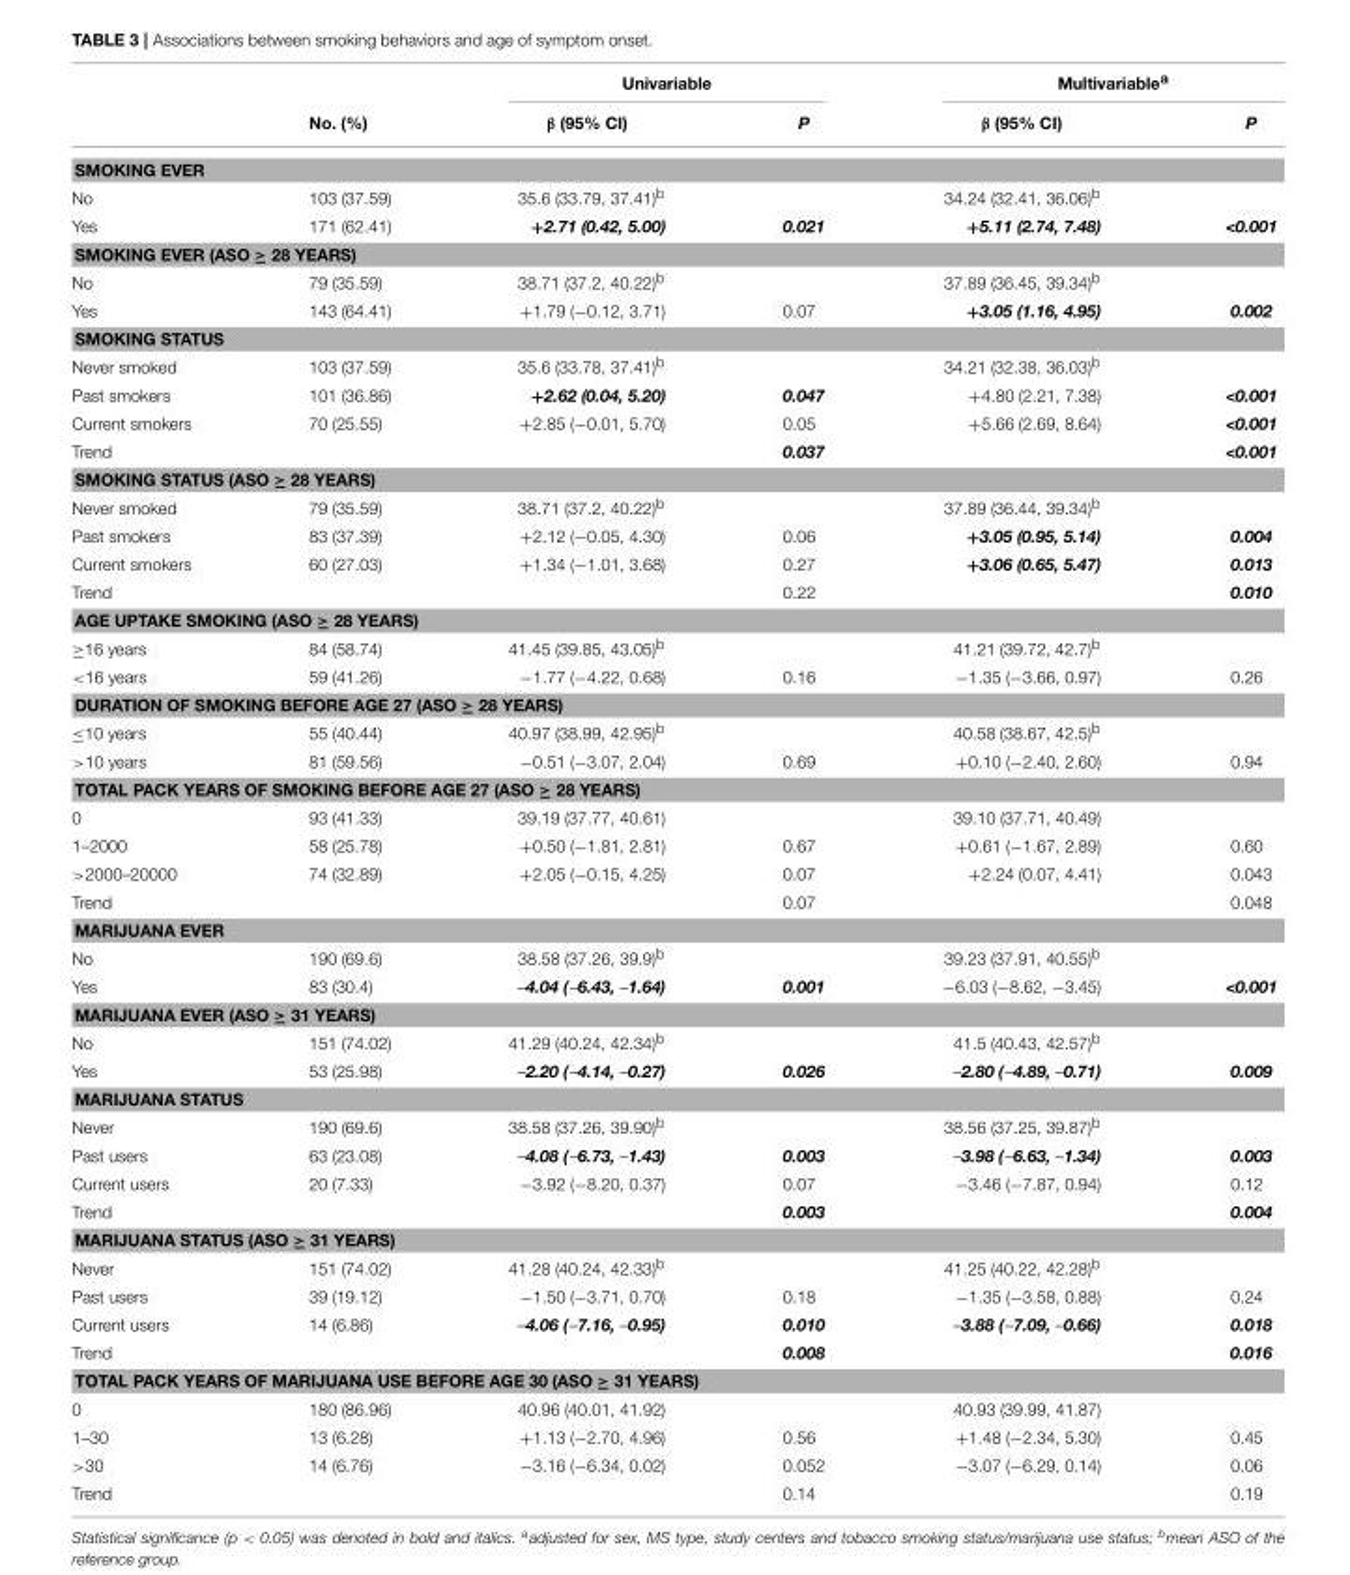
<table><thead><tr><td rowspan="2"></td><td rowspan="2">No. (%)</td><td colspan="2">Univariable</td><td colspan="2">Multivariable<sup>a</sup></td></tr><tr><td>β (95% CI)</td><td>P</td><td>β (95% CI)</td><td>P</td></tr></thead><tbody><tr><td colspan="6">SMOKING EVER</td></tr><tr><td>No</td><td>103 (37.59)</td><td>35.6 (33.79, 37.41)<sup>b</sup></td><td></td><td>34.24 (32.41, 36.06)<sup>b</sup></td><td></td></tr><tr><td>Yes</td><td>171 (62.41)</td><td>+2.71 (0.42, 5.00)</td><td>0.021</td><td>+5.11 (2.74, 7.48)</td><td>&lt;0.001</td></tr><tr><td colspan="6">SMOKING EVER (ASO ≥ 28 YEARS)</td></tr><tr><td>No</td><td>79 (35.59)</td><td>38.71 (37.2, 40.22)<sup>b</sup></td><td></td><td>37.89 (36.45, 39.34)<sup>b</sup></td><td></td></tr><tr><td>Yes</td><td>143 (64.41)</td><td>+1.79 (−0.12, 3.71)</td><td>0.07</td><td>+3.05 (1.16, 4.95)</td><td>0.002</td></tr><tr><td colspan="6">SMOKING STATUS</td></tr><tr><td>Never smoked</td><td>103 (37.59)</td><td>35.6 (33.78, 37.41)<sup>b</sup></td><td></td><td>34.21 (32.38, 36.03)<sup>b</sup></td><td></td></tr><tr><td>Past smokers</td><td>101 (36.86)</td><td>+2.62 (0.04, 5.20)</td><td>0.047</td><td>+4.80 (2.21, 7.38)</td><td>&lt;0.001</td></tr><tr><td>Current smokers</td><td>70 (25.55)</td><td>+2.85 (−0.01, 5.70)</td><td>0.05</td><td>+5.66 (2.69, 8.64)</td><td>&lt;0.001</td></tr><tr><td>Trend</td><td></td><td></td><td>0.037</td><td></td><td>&lt;0.001</td></tr><tr><td colspan="6">SMOKING STATUS (ASO ≥ 28 YEARS)</td></tr><tr><td>Never smoked</td><td>79 (35.59)</td><td>38.71 (37.2, 40.22)<sup>b</sup></td><td></td><td>37.89 (36.44, 39.34)<sup>b</sup></td><td></td></tr><tr><td>Past smokers</td><td>83 (37.39)</td><td>+2.12 (−0.05, 4.30)</td><td>0.06</td><td>+3.05 (0.95, 5.14)</td><td>0.004</td></tr><tr><td>Current smokers</td><td>60 (27.03)</td><td>+1.34 (−1.01, 3.68)</td><td>0.27</td><td>+3.06 (0.65, 5.47)</td><td>0.013</td></tr><tr><td>Trend</td><td></td><td></td><td>0.22</td><td></td><td>0.010</td></tr><tr><td colspan="6">AGE UPTAKE SMOKING (ASO ≥ 28 YEARS)</td></tr><tr><td>≥16 years</td><td>84 (58.74)</td><td>41.45 (39.85, 43.05)<sup>b</sup></td><td></td><td>41.21 (39.72, 42.7)<sup>b</sup></td><td></td></tr><tr><td>&lt;16 years</td><td>59 (41.26)</td><td>−1.77 (−4.22, 0.68)</td><td>0.16</td><td>−1.35 (−3.66, 0.97)</td><td>0.26</td></tr><tr><td colspan="6">DURATION OF SMOKING BEFORE AGE 27 (ASO ≥ 28 YEARS)</td></tr><tr><td>≤10 years</td><td>55 (40.44)</td><td>40.97 (38.99, 42.95)<sup>b</sup></td><td></td><td>40.58 (38.67, 42.5)<sup>b</sup></td><td></td></tr><tr><td>&gt;10 years</td><td>81 (59.56)</td><td>−0.51 (−3.07, 2.04)</td><td>0.69</td><td>+0.10 (−2.40, 2.60)</td><td>0.94</td></tr><tr><td colspan="6">TOTAL PACK YEARS OF SMOKING BEFORE AGE 27 (ASO ≥ 28 YEARS)</td></tr><tr><td>0</td><td>93 (41.33)</td><td>39.19 (37.77, 40.61)</td><td></td><td>39.10 (37.71, 40.49)</td><td></td></tr><tr><td>1–2000</td><td>58 (25.78)</td><td>+0.50 (−1.81, 2.81)</td><td>0.67</td><td>+0.61 (−1.67, 2.89)</td><td>0.60</td></tr><tr><td>&gt;2000–20000</td><td>74 (32.89)</td><td>+2.05 (−0.15, 4.25)</td><td>0.07</td><td>+2.24 (0.07, 4.41)</td><td>0.043</td></tr><tr><td>Trend</td><td></td><td></td><td>0.07</td><td></td><td>0.048</td></tr><tr><td colspan="6">MARIJUANA EVER</td></tr><tr><td>No</td><td>190 (69.6)</td><td>38.58 (37.26, 39.9)<sup>b</sup></td><td></td><td>39.23 (37.91, 40.55)<sup>b</sup></td><td></td></tr><tr><td>Yes</td><td>83 (30.4)</td><td>–4.04 (–6.43, –1.64)</td><td>0.001</td><td>−6.03 (−8.62, −3.45)</td><td>&lt;0.001</td></tr><tr><td colspan="6">MARIJUANA EVER (ASO ≥ 31 YEARS)</td></tr><tr><td>No</td><td>151 (74.02)</td><td>41.29 (40.24, 42.34)<sup>b</sup></td><td></td><td>41.5 (40.43, 42.57)<sup>b</sup></td><td></td></tr><tr><td>Yes</td><td>53 (25.98)</td><td>–2.20 (–4.14, –0.27)</td><td>0.026</td><td>–2.80 (–4.89, –0.71)</td><td>0.009</td></tr><tr><td colspan="6">MARIJUANA STATUS</td></tr><tr><td>Never</td><td>190 (69.6)</td><td>38.58 (37.26, 39.90)<sup>b</sup></td><td></td><td>38.56 (37.25, 39.87)<sup>b</sup></td><td></td></tr><tr><td>Past users</td><td>63 (23.08)</td><td>–4.08 (–6.73, –1.43)</td><td>0.003</td><td>–3.98 (–6.63, –1.34)</td><td>0.003</td></tr><tr><td>Current users</td><td>20 (7.33)</td><td>−3.92 (−8.20, 0.37)</td><td>0.07</td><td>−3.46 (−7.87, 0.94)</td><td>0.12</td></tr><tr><td>Trend</td><td></td><td></td><td>0.003</td><td></td><td>0.004</td></tr><tr><td colspan="6">MARIJUANA STATUS (ASO ≥ 31 YEARS)</td></tr><tr><td>Never</td><td>151 (74.02)</td><td>41.28 (40.24, 42.33)<sup>b</sup></td><td></td><td>41.25 (40.22, 42.28)<sup>b</sup></td><td></td></tr><tr><td>Past users</td><td>39 (19.12)</td><td>−1.50 (−3.71, 0.70)</td><td>0.18</td><td>−1.35 (−3.58, 0.88)</td><td>0.24</td></tr><tr><td>Current users</td><td>14 (6.86)</td><td>–4.06 (–7.16, –0.95)</td><td>0.010</td><td>–3.88 (–7.09, –0.66)</td><td>0.018</td></tr><tr><td>Trend</td><td></td><td></td><td>0.008</td><td></td><td>0.016</td></tr><tr><td colspan="6">TOTAL PACK YEARS OF MARIJUANA USE BEFORE AGE 30 (ASO ≥ 31 YEARS)</td></tr><tr><td>0</td><td>180 (86.96)</td><td>40.96 (40.01, 41.92)</td><td></td><td>40.93 (39.99, 41.87)</td><td></td></tr><tr><td>1–30</td><td>13 (6.28)</td><td>+1.13 (−2.70, 4.96)</td><td>0.56</td><td>+1.48 (−2.34, 5.30)</td><td>0.45</td></tr><tr><td>&gt;30</td><td>14 (6.76)</td><td>−3.16 (−6.34, 0.02)</td><td>0.052</td><td>−3.07 (−6.29, 0.14)</td><td>0.06</td></tr><tr><td>Trend</td><td></td><td></td><td>0.14</td><td></td><td>0.19</td></tr></tbody></table>